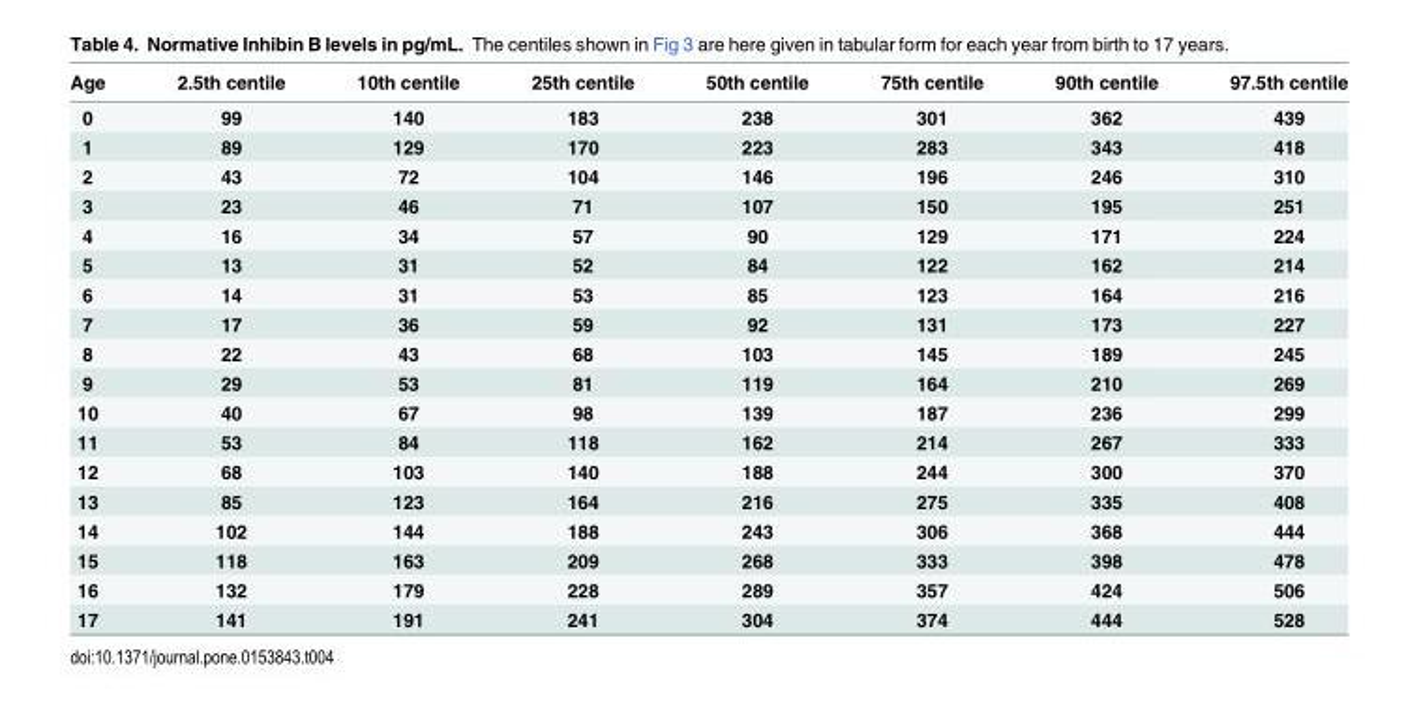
<table><thead><tr><td>Age</td><td>2.5th centile</td><td>10th centile</td><td>25th centile</td><td>50th centile</td><td>75th centile</td><td>90th centile</td><td>97.5th centile</td></tr></thead><tbody><tr><td>0</td><td>99</td><td>140</td><td>183</td><td>238</td><td>301</td><td>362</td><td>439</td></tr><tr><td>1</td><td>89</td><td>129</td><td>170</td><td>223</td><td>283</td><td>343</td><td>418</td></tr><tr><td>2</td><td>43</td><td>72</td><td>104</td><td>146</td><td>196</td><td>246</td><td>310</td></tr><tr><td>3</td><td>23</td><td>46</td><td>71</td><td>107</td><td>150</td><td>195</td><td>251</td></tr><tr><td>4</td><td>16</td><td>34</td><td>57</td><td>90</td><td>129</td><td>171</td><td>224</td></tr><tr><td>5</td><td>13</td><td>31</td><td>52</td><td>84</td><td>122</td><td>162</td><td>214</td></tr><tr><td>6</td><td>14</td><td>31</td><td>53</td><td>85</td><td>123</td><td>164</td><td>216</td></tr><tr><td>7</td><td>17</td><td>36</td><td>59</td><td>92</td><td>131</td><td>173</td><td>227</td></tr><tr><td>8</td><td>22</td><td>43</td><td>68</td><td>103</td><td>145</td><td>189</td><td>245</td></tr><tr><td>9</td><td>29</td><td>53</td><td>81</td><td>119</td><td>164</td><td>210</td><td>269</td></tr><tr><td>10</td><td>40</td><td>67</td><td>98</td><td>139</td><td>187</td><td>236</td><td>299</td></tr><tr><td>11</td><td>53</td><td>84</td><td>118</td><td>162</td><td>214</td><td>267</td><td>333</td></tr><tr><td>12</td><td>68</td><td>103</td><td>140</td><td>188</td><td>244</td><td>300</td><td>370</td></tr><tr><td>13</td><td>85</td><td>123</td><td>164</td><td>216</td><td>275</td><td>335</td><td>408</td></tr><tr><td>14</td><td>102</td><td>144</td><td>188</td><td>243</td><td>306</td><td>368</td><td>444</td></tr><tr><td>15</td><td>118</td><td>163</td><td>209</td><td>268</td><td>333</td><td>398</td><td>478</td></tr><tr><td>16</td><td>132</td><td>179</td><td>228</td><td>289</td><td>357</td><td>424</td><td>506</td></tr><tr><td>17</td><td>141</td><td>191</td><td>241</td><td>304</td><td>374</td><td>444</td><td>528</td></tr></tbody></table>